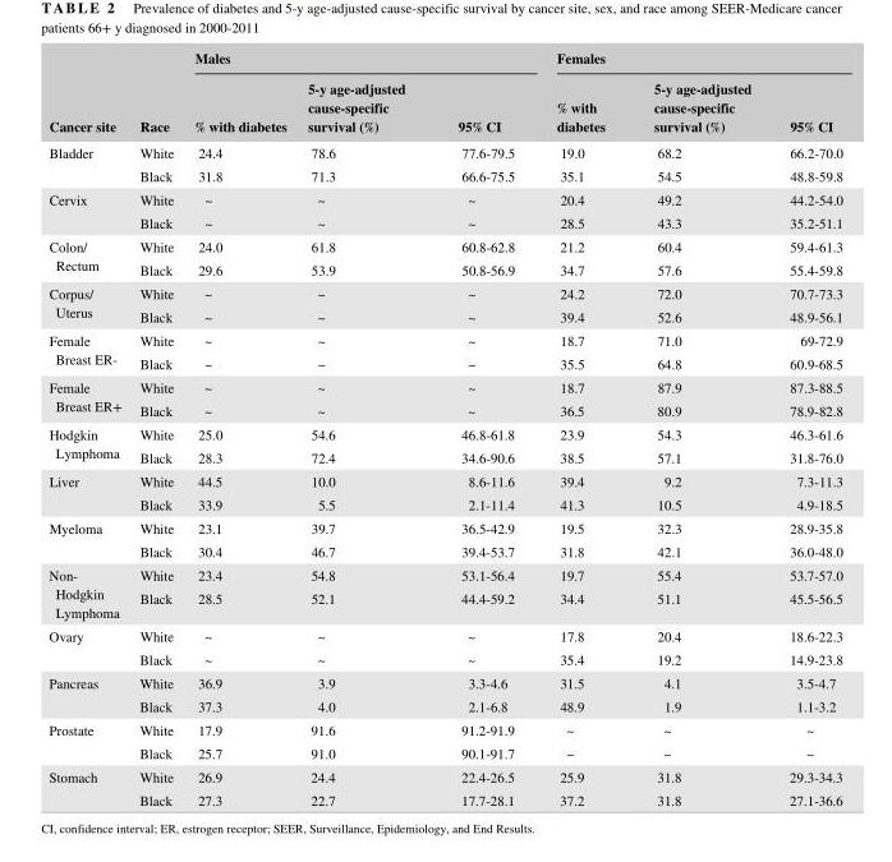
<table><thead><tr><td rowspan="2">Cancer site</td><td rowspan="2">Race</td><td colspan="3">Males</td><td colspan="3">Females</td></tr><tr><td>% with diabetes</td><td>5- y age- adjusted cause- specific survival (%)</td><td>95% CI</td><td>% with diabetes</td><td>5- y age- adjusted cause- specific survival (%)</td><td>95% CI</td></tr></thead><tbody><tr><td rowspan="2">Bladder</td><td>White</td><td>24.4</td><td>78.6</td><td>77.6- 79.5</td><td>19.0</td><td>68.2</td><td>66.2- 70.0</td></tr><tr><td>Black</td><td>31.8</td><td>71.3</td><td>66.6- 75.5</td><td>35.1</td><td>54.5</td><td>48.8- 59.8</td></tr><tr><td rowspan="2">Cervix</td><td>White</td><td>~</td><td>~</td><td>~</td><td>20.4</td><td>49.2</td><td>44.2- 54.0</td></tr><tr><td>Black</td><td>~</td><td>~</td><td>~</td><td>28.5</td><td>43.3</td><td>35.2- 51.1</td></tr><tr><td rowspan="2">Colon/ Rectum</td><td>White</td><td>24.0</td><td>61.8</td><td>60.8- 62.8</td><td>21.2</td><td>60.4</td><td>59.4- 61.3</td></tr><tr><td>Black</td><td>29.6</td><td>53.9</td><td>50.8- 56.9</td><td>34.7</td><td>57.6</td><td>55.4- 59.8</td></tr><tr><td rowspan="2">Corpus/ Uterus</td><td>White</td><td>~</td><td>~</td><td>~</td><td>24.2</td><td>72.0</td><td>70.7- 73.3</td></tr><tr><td>Black</td><td>~</td><td>~</td><td>~</td><td>39.4</td><td>52.6</td><td>48.9- 56.1</td></tr><tr><td rowspan="2">Female Breast ER-</td><td>White</td><td>~</td><td>~</td><td>~</td><td>18.7</td><td>71.0</td><td>69- 72.9</td></tr><tr><td>Black</td><td>~</td><td>~</td><td>~</td><td>35.5</td><td>64.8</td><td>60.9- 68.5</td></tr><tr><td rowspan="2">Female Breast ER+</td><td>White</td><td>~</td><td>~</td><td>~</td><td>18.7</td><td>87.9</td><td>87.3- 88.5</td></tr><tr><td>Black</td><td>~</td><td>~</td><td>~</td><td>36.5</td><td>80.9</td><td>78.9- 82.8</td></tr><tr><td rowspan="2">Hodgkin Lymphoma</td><td>White</td><td>25.0</td><td>54.6</td><td>46.8- 61.8</td><td>23.9</td><td>54.3</td><td>46.3- 61.6</td></tr><tr><td>Black</td><td>28.3</td><td>72.4</td><td>34.6- 90.6</td><td>38.5</td><td>57.1</td><td>31.8- 76.0</td></tr><tr><td rowspan="2">Liver</td><td>White</td><td>44.5</td><td>10.0</td><td>8.6- 11.6</td><td>39.4</td><td>9.2</td><td>7.3- 11.3</td></tr><tr><td>Black</td><td>33.9</td><td>5.5</td><td>2.1- 11.4</td><td>41.3</td><td>10.5</td><td>4.9- 18.5</td></tr><tr><td rowspan="2">Myeloma</td><td>White</td><td>23.1</td><td>39.7</td><td>36.5- 42.9</td><td>19.5</td><td>32.3</td><td>28.9- 35.8</td></tr><tr><td>Black</td><td>30.4</td><td>46.7</td><td>39.4- 53.7</td><td>31.8</td><td>42.1</td><td>36.0- 48.0</td></tr><tr><td rowspan="2">Non- Hodgkin Lymphoma</td><td>White</td><td>23.4</td><td>54.8</td><td>53.1- 56.4</td><td>19.7</td><td>55.4</td><td>53.7- 57.0</td></tr><tr><td>Black</td><td>28.5</td><td>52.1</td><td>44.4- 59.2</td><td>34.4</td><td>51.1</td><td>45.5- 56.5</td></tr><tr><td rowspan="2">Ovary</td><td>White</td><td>~</td><td>~</td><td>~</td><td>17.8</td><td>20.4</td><td>18.6- 22.3</td></tr><tr><td>Black</td><td>~</td><td>~</td><td>~</td><td>35.4</td><td>19.2</td><td>14.9- 23.8</td></tr><tr><td rowspan="2">Pancreas</td><td>White</td><td>36.9</td><td>3.9</td><td>3.3- 4.6</td><td>31.5</td><td>4.1</td><td>3.5- 4.7</td></tr><tr><td>Black</td><td>37.3</td><td>4.0</td><td>2.1- 6.8</td><td>48.9</td><td>1.9</td><td>1.1- 3.2</td></tr><tr><td rowspan="2">Prostate</td><td>White</td><td>17.9</td><td>91.6</td><td>91.2- 91.9</td><td>~</td><td>~</td><td>~</td></tr><tr><td>Black</td><td>25.7</td><td>91.0</td><td>90.1- 91.7</td><td>~</td><td>~</td><td>~</td></tr><tr><td rowspan="2">Stomach</td><td>White</td><td>26.9</td><td>24.4</td><td>22.4- 26.5</td><td>25.9</td><td>31.8</td><td>29.3- 34.3</td></tr><tr><td>Black</td><td>27.3</td><td>22.7</td><td>17.7- 28.1</td><td>37.2</td><td>31.8</td><td>27.1- 36.6</td></tr></tbody></table>